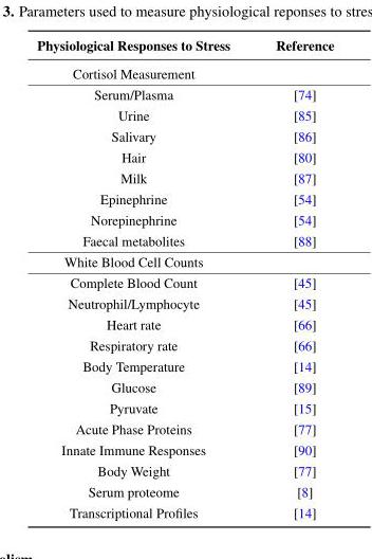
<table><thead><tr><td>Physiological Responses to Stress</td><td>Reference</td></tr></thead><tbody><tr><td colspan="2">Cortisol Measurement</td></tr><tr><td>Serum/Plasma</td><td>[74]</td></tr><tr><td>Urine</td><td>[85]</td></tr><tr><td>Salivary</td><td>[86]</td></tr><tr><td>Hair</td><td>[80]</td></tr><tr><td>Milk</td><td>[87]</td></tr><tr><td>Epinephrine</td><td>[54]</td></tr><tr><td>Norepinephrine</td><td>[54]</td></tr><tr><td>Faecal metabolites</td><td>[88]</td></tr><tr><td colspan="2">White Blood Cell Counts</td></tr><tr><td>Complete Blood Count</td><td>[45]</td></tr><tr><td>Neutrophil/Lymphocyte</td><td>[45]</td></tr><tr><td>Heart rate</td><td>[66]</td></tr><tr><td>Respiratory rate</td><td>[66]</td></tr><tr><td>Body Temperature</td><td>[14]</td></tr><tr><td>Glucose</td><td>[89]</td></tr><tr><td>Pyruvate</td><td>[15]</td></tr><tr><td>Acute Phase Proteins</td><td>[77]</td></tr><tr><td>Innate Immune Responses</td><td>[90]</td></tr><tr><td>Body Weight</td><td>[77]</td></tr><tr><td>Serum proteome</td><td>[8]</td></tr><tr><td>Transcriptional Profiles</td><td>[14]</td></tr></tbody></table>